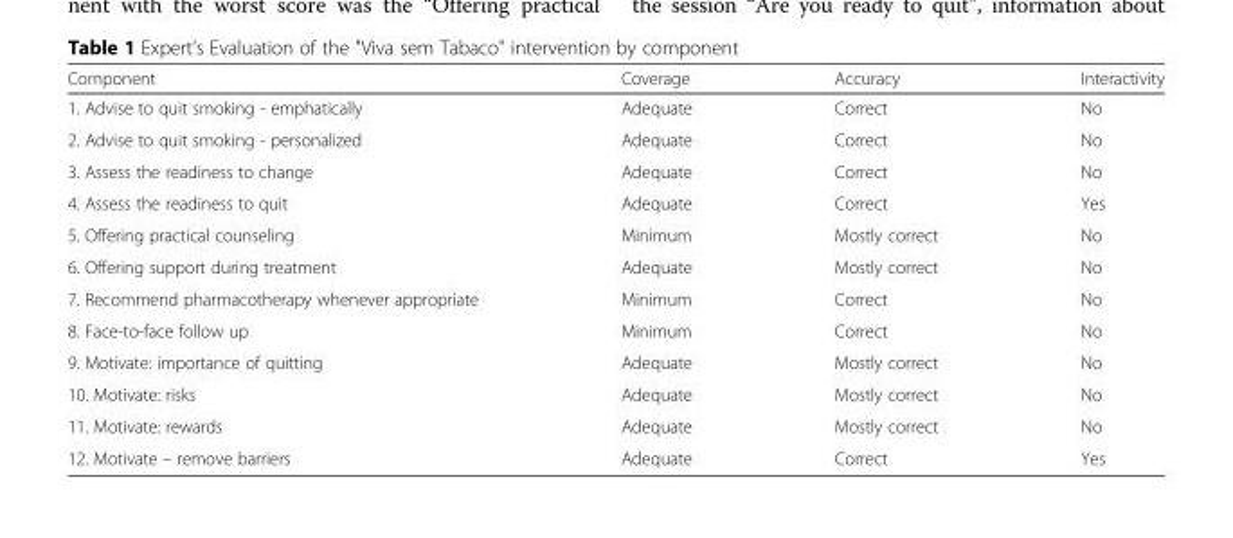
<table><thead><tr><td>Component</td><td>Coverage</td><td>Accuracy</td><td>Interactivity</td></tr></thead><tbody><tr><td>1. Advise to quit smoking - emphatically</td><td>Adequate</td><td>Correct</td><td>No</td></tr><tr><td>2. Advise to quit smoking - personalized</td><td>Adequate</td><td>Correct</td><td>No</td></tr><tr><td>3. Assess the readiness to change</td><td>Adequate</td><td>Correct</td><td>No</td></tr><tr><td>4. Assess the readiness to quit</td><td>Adequate</td><td>Correct</td><td>Yes</td></tr><tr><td>5. Offering practical counseling</td><td>Minimum</td><td>Mostly correct</td><td>No</td></tr><tr><td>6. Offering support during treatment</td><td>Adequate</td><td>Mostly correct</td><td>No</td></tr><tr><td>7. Recommend pharmacotherapy whenever appropriate</td><td>Minimum</td><td>Correct</td><td>No</td></tr><tr><td>8. Face-to-face follow up</td><td>Minimum</td><td>Correct</td><td>No</td></tr><tr><td>9. Motivate: importance of quitting</td><td>Adequate</td><td>Mostly correct</td><td>No</td></tr><tr><td>10. Motivate: risks</td><td>Adequate</td><td>Mostly correct</td><td>No</td></tr><tr><td>11. Motivate: rewards</td><td>Adequate</td><td>Mostly correct</td><td>No</td></tr><tr><td>12. Motivate – remove barriers</td><td>Adequate</td><td>Correct</td><td>Yes</td></tr></tbody></table>